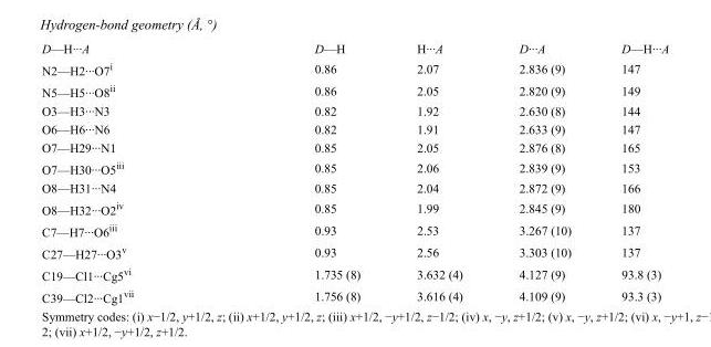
<table><tbody><tr><td>D—H···A</td><td>D—H</td><td>H···A</td><td>D···A</td><td>D—H···A</td></tr><tr><td>N2—H2···O7<sup>i</sup></td><td>0.86</td><td>2.07</td><td>2.836 (9)</td><td>147</td></tr><tr><td>N5—H5···O8<sup>ii</sup></td><td>0.86</td><td>2.05</td><td>2.820 (9)</td><td>149</td></tr><tr><td>O3—H3···N3</td><td>0.82</td><td>1.92</td><td>2.630 (8)</td><td>144</td></tr><tr><td>O6—H6···N6</td><td>0.82</td><td>1.91</td><td>2.633 (9)</td><td>147</td></tr><tr><td>O7—H29···N1</td><td>0.85</td><td>2.05</td><td>2.876 (8)</td><td>165</td></tr><tr><td>O7—H30···O5<sup>iii</sup></td><td>0.85</td><td>2.06</td><td>2.839 (9)</td><td>153</td></tr><tr><td>O8—H31···N4</td><td>0.85</td><td>2.04</td><td>2.872 (9)</td><td>166</td></tr><tr><td>O8—H32···O2<sup>iv</sup></td><td>0.85</td><td>1.99</td><td>2.845 (9)</td><td>180</td></tr><tr><td>C7—H7···O6<sup>iii</sup></td><td>0.93</td><td>2.53</td><td>3.267 (10)</td><td>137</td></tr><tr><td>C27—H27···O3<sup>v</sup></td><td>0.93</td><td>2.56</td><td>3.303 (10)</td><td>137</td></tr><tr><td>C19—Cl1···Cg5<sup>vi</sup></td><td>1.735 (8)</td><td>3.632 (4)</td><td>4.127 (9)</td><td>93.8 (3)</td></tr><tr><td>C39—Cl2···Cg1<sup>vii</sup></td><td>1.756 (8)</td><td>3.616 (4)</td><td>4.109 (9)</td><td>93.3 (3)</td></tr></tbody></table>